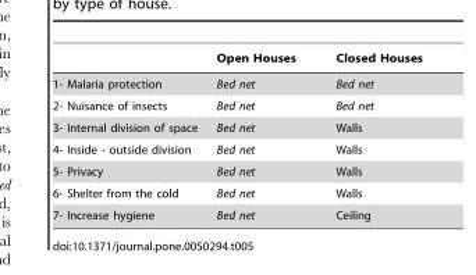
<table><thead><tr><td></td><td>Open Houses</td><td>Closed Houses</td></tr></thead><tbody><tr><td>1- Malaria protection</td><td>Bed net</td><td>Bed net</td></tr><tr><td>2- Nuisance of insects</td><td>Bed net</td><td>Bed net</td></tr><tr><td>3- Internal division of space</td><td>Bed net</td><td>Walls</td></tr><tr><td>4- Inside - outside division</td><td>Bed net</td><td>Walls</td></tr><tr><td>5- Privacy</td><td>Bed net</td><td>Walls</td></tr><tr><td>6- Shelter from the cold</td><td>Bed net</td><td>Walls</td></tr><tr><td>7- Increase hygiene</td><td>Bed net</td><td>Ceiling</td></tr></tbody></table>